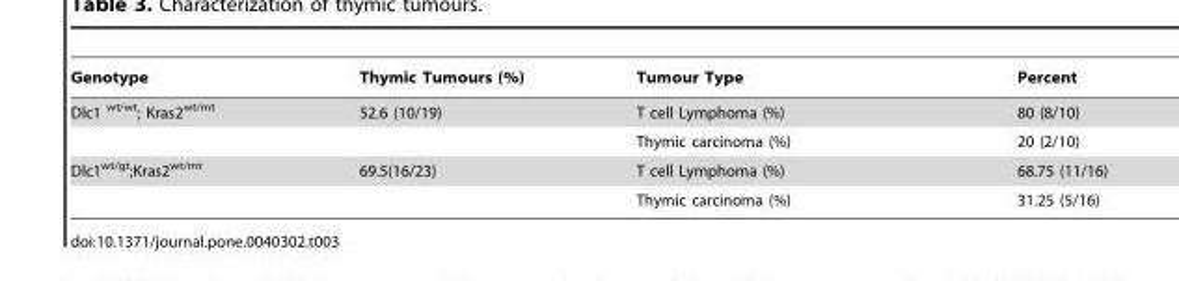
<table><thead><tr><td>Genotype</td><td>Thymic Tumours (%)</td><td>Tumour Type</td><td>Percent</td></tr></thead><tbody><tr><td rowspan="2">Dlc1 <sup>wt/wt</sup>; Kras2<sup>wt/mt</sup></td><td>52.6 (10/19)</td><td>T cell Lymphoma (%)</td><td>80 (8/10)</td></tr><tr><td></td><td>Thymic carcinoma (%)</td><td>20 (2/10)</td></tr><tr><td rowspan="2">Dlc1<sup>wt/gt</sup>;Kras2<sup>wt/mt</sup></td><td>69.5(16/23)</td><td>T cell Lymphoma (%)</td><td>68.75 (11/16)</td></tr><tr><td></td><td>Thymic carcinoma (%)</td><td>31.25 (5/16)</td></tr></tbody></table>